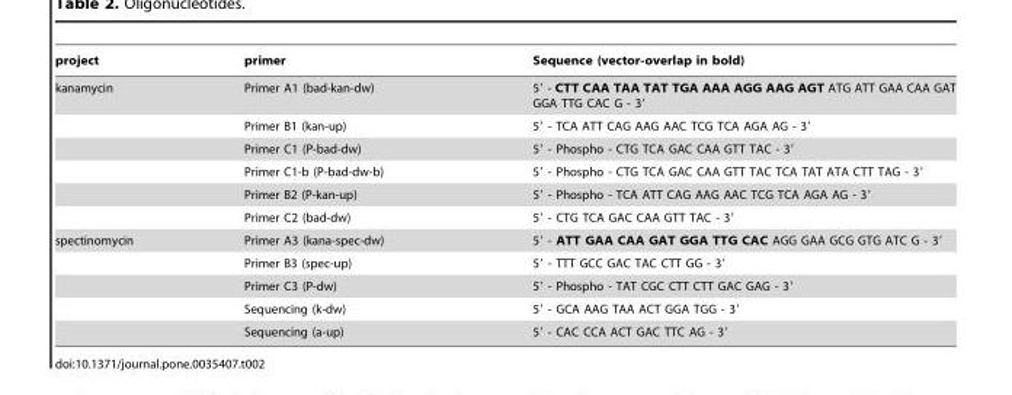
<table><thead><tr><td>project</td><td>primer</td><td>Sequence (vector-overlap in bold)</td></tr></thead><tbody><tr><td rowspan="6">kanamycin</td><td>Primer A1 (bad-kan-dw)</td><td>5′ - CTT CAA TAA TAT TGA AAA AGG AAG AGT ATG ATT GAA CAA GAT GGA TTG CAC G - 3′</td></tr><tr><td>Primer B1 (kan-up)</td><td>5′ - TCA ATT CAG AAG AAC TCG TCA AGA AG - 3′</td></tr><tr><td>Primer C1 (P-bad-dw)</td><td>5′ - Phospho - CTG TCA GAC CAA GTT TAC - 3′</td></tr><tr><td>Primer C1-b (P-bad-dw-b)</td><td>5′ - Phospho - CTG TCA GAC CAA GTT TAC TCA TAT ATA CTT TAG - 3′</td></tr><tr><td>Primer B2 (P-kan-up)</td><td>5′ - Phospho - TCA ATT CAG AAG AAC TCG TCA AGA AG - 3′</td></tr><tr><td>Primer C2 (bad-dw)</td><td>5′ - CTG TCA GAC CAA GTT TAC - 3′</td></tr><tr><td rowspan="5">spectinomycin</td><td>Primer A3 (kana-spec-dw)</td><td>5′ - ATT GAA CAA GAT GGA TTG CAC AGG GAA GCG GTG ATC G - 3′</td></tr><tr><td>Primer B3 (spec-up)</td><td>5′ - TTT GCC GAC TAC CTT GG - 3′</td></tr><tr><td>Primer C3 (P-dw)</td><td>5′ - Phospho - TAT CGC CTT CTT GAC GAG - 3′</td></tr><tr><td>Sequencing (k-dw)</td><td>5′ - GCA AAG TAA ACT GGA TGG - 3′</td></tr><tr><td>Sequencing (a-up)</td><td>5′ - CAC CCA ACT GAC TTC AG - 3′</td></tr></tbody></table>